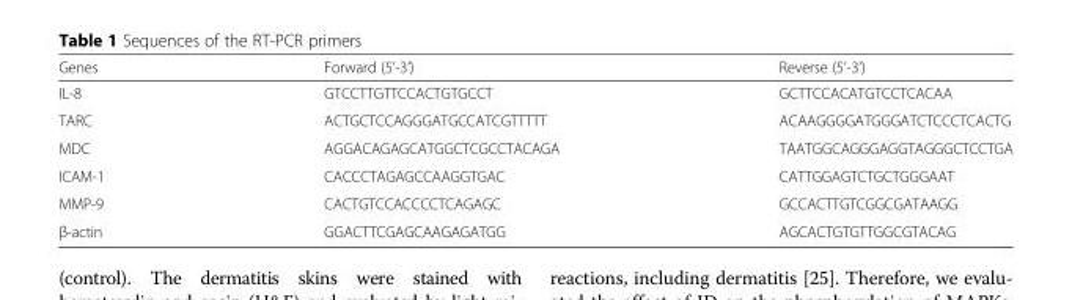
<table><thead><tr><td>Genes</td><td>Forward (5’-3’)</td><td>Reverse (5’-3’)</td></tr></thead><tbody><tr><td>IL-8</td><td>GTCCTTGTTCCACTGTGCCT</td><td>GCTTCCACATGTCCTCACAA</td></tr><tr><td>TARC</td><td>ACTGCTCCAGGGATGCCATCGTTTTT</td><td>ACAAGGGGATGGGATCTCCCTCACTG</td></tr><tr><td>MDC</td><td>AGGACAGAGCATGGCTCGCCTACAGA</td><td>TAATGGCAGGGAGGTAGGGCTCCTGA</td></tr><tr><td>ICAM-1</td><td>CACCCTAGAGCCAAGGTGAC</td><td>CATTGGAGTCTGCTGGGAAT</td></tr><tr><td>MMP-9</td><td>CACTGTCCACCCCTCAGAGC</td><td>GCCACTTGTCGGCGATAAGG</td></tr><tr><td>β-actin</td><td>GGACTTCGAGCAAGAGATGG</td><td>AGCACTGTGTTGGCGTACAG</td></tr></tbody></table>